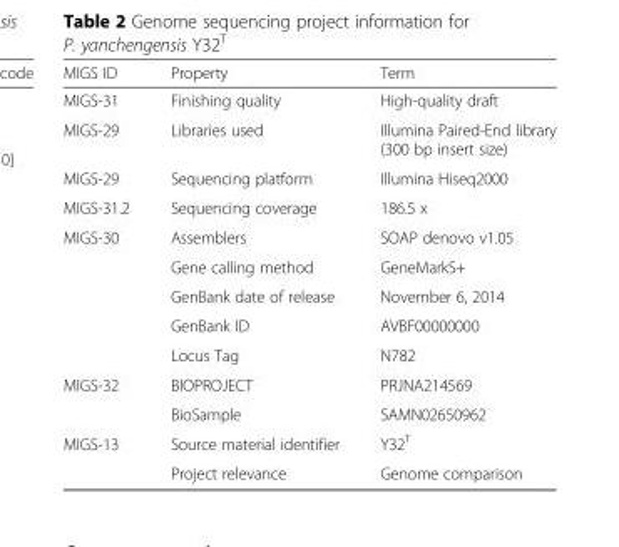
<table><thead><tr><td>MIGS ID</td><td>Property</td><td>Term</td></tr></thead><tbody><tr><td>MIGS-31</td><td>Finishing quality</td><td>High-quality draft</td></tr><tr><td>MIGS-29</td><td>Libraries used</td><td>Illumina Paired-End library (300 bp insert size)</td></tr><tr><td>MIGS-29</td><td>Sequencing platform</td><td>Illumina Hiseq2000</td></tr><tr><td>MIGS-31.2</td><td>Sequencing coverage</td><td>186.5 x</td></tr><tr><td rowspan="5">MIGS-30</td><td>Assemblers</td><td>SOAP denovo v1.05</td></tr><tr><td>Gene calling method</td><td>GeneMarkS+</td></tr><tr><td>GenBank date of release</td><td>November 6, 2014</td></tr><tr><td>GenBank ID</td><td>AVBF00000000</td></tr><tr><td>Locus Tag</td><td>N782</td></tr><tr><td rowspan="2">MIGS-32</td><td>BIOPROJECT</td><td>PRJNA214569</td></tr><tr><td>BioSample</td><td>SAMN02650962</td></tr><tr><td rowspan="2">MIGS-13</td><td>Source material identifier</td><td>Y32<sup>T</sup></td></tr><tr><td>Project relevance</td><td>Genome comparison</td></tr></tbody></table>